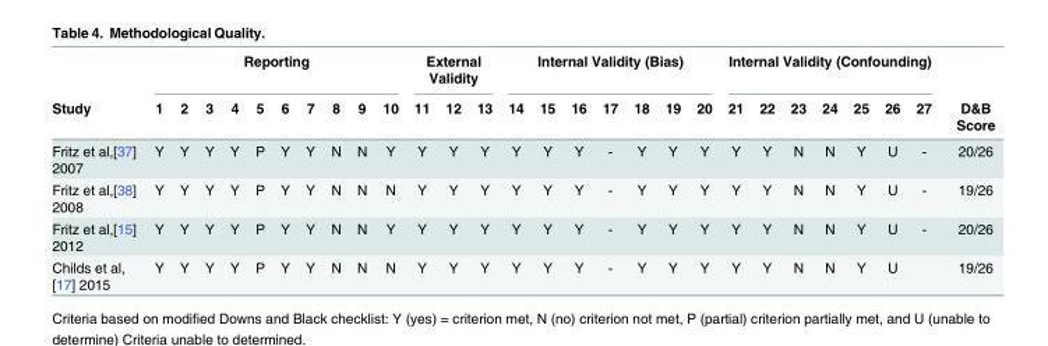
<table><thead><tr><td rowspan="2">Study</td><td colspan="10">Reporting</td><td colspan="3">External Validity</td><td colspan="7">Internal Validity (Bias)</td><td colspan="7">Internal Validity (Confounding)</td><td rowspan="2">D&amp;B Score</td></tr><tr><td>1</td><td>2</td><td>3</td><td>4</td><td>5</td><td>6</td><td>7</td><td>8</td><td>9</td><td>10</td><td>11</td><td>12</td><td>13</td><td>14</td><td>15</td><td>16</td><td>17</td><td>18</td><td>19</td><td>20</td><td>21</td><td>22</td><td>23</td><td>24</td><td>25</td><td>26</td><td>27</td></tr></thead><tbody><tr><td>Fritz et al,[37] 2007</td><td>Y</td><td>Y</td><td>Y</td><td>Y</td><td>P</td><td>Y</td><td>Y</td><td>N</td><td>N</td><td>Y</td><td>Y</td><td>Y</td><td>Y</td><td>Y</td><td>Y</td><td>Y</td><td>-</td><td>Y</td><td>Y</td><td>Y</td><td>Y</td><td>Y</td><td>N</td><td>N</td><td>Y</td><td>U</td><td>-</td><td>20/26</td></tr><tr><td>Fritz et al,[38] 2008</td><td>Y</td><td>Y</td><td>Y</td><td>Y</td><td>P</td><td>Y</td><td>Y</td><td>N</td><td>N</td><td>N</td><td>Y</td><td>Y</td><td>Y</td><td>Y</td><td>Y</td><td>Y</td><td>-</td><td>Y</td><td>Y</td><td>Y</td><td>Y</td><td>Y</td><td>N</td><td>N</td><td>Y</td><td>U</td><td>-</td><td>19/26</td></tr><tr><td>Fritz et al,[15] 2012</td><td>Y</td><td>Y</td><td>Y</td><td>Y</td><td>P</td><td>Y</td><td>Y</td><td>N</td><td>N</td><td>Y</td><td>Y</td><td>Y</td><td>Y</td><td>Y</td><td>Y</td><td>Y</td><td>-</td><td>Y</td><td>Y</td><td>Y</td><td>Y</td><td>Y</td><td>N</td><td>N</td><td>Y</td><td>U</td><td>-</td><td>20/26</td></tr><tr><td>Childs et al, [17] 2015</td><td>Y</td><td>Y</td><td>Y</td><td>Y</td><td>P</td><td>Y</td><td>Y</td><td>N</td><td>N</td><td>N</td><td>Y</td><td>Y</td><td>Y</td><td>Y</td><td>Y</td><td>Y</td><td>-</td><td>Y</td><td>Y</td><td>Y</td><td>Y</td><td>Y</td><td>N</td><td>N</td><td>Y</td><td>U</td><td></td><td>19/26</td></tr></tbody></table>